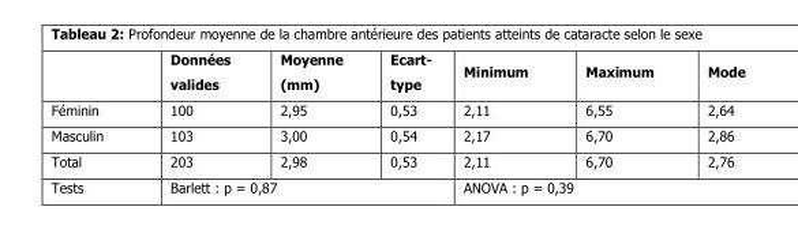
<table><thead><tr><td></td><td>Données valides</td><td>Moyenne (mm)</td><td>Ecart- type</td><td>Minimum</td><td>Maximum</td><td>Mode</td></tr></thead><tbody><tr><td>Féminin</td><td>100</td><td>2,95</td><td>0,53</td><td>2,11</td><td>6,55</td><td>2,64</td></tr><tr><td>Masculin</td><td>103</td><td>3,00</td><td>0,54</td><td>2,17</td><td>6,70</td><td>2,86</td></tr><tr><td>Total</td><td>203</td><td>2,98</td><td>0,53</td><td>2,11</td><td>6,70</td><td>2,76</td></tr><tr><td>Tests</td><td colspan="3">Barlett : p = 0,87</td><td colspan="3">ANOVA : p = 0,39</td></tr></tbody></table>